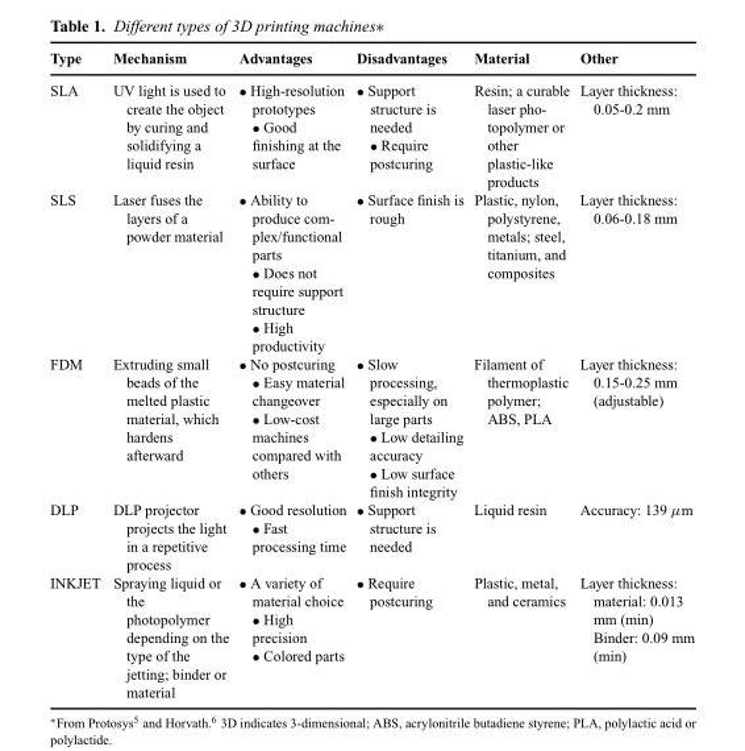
<table><thead><tr><td>Type</td><td>Mechanism</td><td>Advantages</td><td>Disadvantages</td><td>Material</td><td>Other</td></tr></thead><tbody><tr><td>SLA</td><td>UV light is used to create the object by curing and solidifying a liquid resin</td><td>• High-resolution prototypes • Good finishing at the surface</td><td>• Support structure is needed • Require postcuring</td><td>Resin; a curable laser pho- topolymer or other plastic-like products</td><td>Layer thickness: 0.05-0.2 mm</td></tr><tr><td>SLS</td><td>Laser fuses the layers of a powder material</td><td>• Ability to produce com- plex/functional parts • Does not require support structure • High productivity</td><td>• Surface finish is rough</td><td>Plastic, nylon, polystyrene, metals; steel, titanium, and composites</td><td>Layer thickness: 0.06-0.18 mm</td></tr><tr><td>FDM</td><td>Extruding small beads of the melted plastic material, which hardens afterward</td><td>• No postcuring • Easy material changeover • Low-cost machines compared with others</td><td>• Slow processing, especially on large parts • Low detailing accuracy • Low surface finish integrity</td><td>Filament of thermoplastic polymer; ABS, PLA</td><td>Layer thickness: 0.15-0.25 mm (adjustable)</td></tr><tr><td>DLP</td><td>DLP projector projects the light in a repetitive process</td><td>• Good resolution • Fast processing time</td><td>• Support structure is needed</td><td>Liquid resin</td><td>Accuracy: 139 μm</td></tr><tr><td>INKJET</td><td>Spraying liquid or the photopolymer depending on the type of the jetting; binder or material</td><td>• A variety of material choice • High precision • Colored parts</td><td>• Require postcuring</td><td>Plastic, metal, and ceramics</td><td>Layer thickness: material: 0.013 mm (min) Binder: 0.09 mm (min)</td></tr></tbody></table>